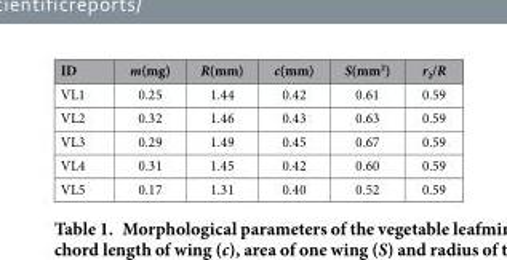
<table><thead><tr><td>ID</td><td>m(mg)</td><td>R(mm)</td><td>c(mm)</td><td>S(mm<sup>2</sup>)</td><td>r<sub>2</sub>/R</td></tr></thead><tbody><tr><td>VL1</td><td>0.25</td><td>1.44</td><td>0.42</td><td>0.61</td><td>0.59</td></tr><tr><td>VL2</td><td>0.32</td><td>1.46</td><td>0.43</td><td>0.63</td><td>0.59</td></tr><tr><td>VL3</td><td>0.29</td><td>1.49</td><td>0.45</td><td>0.67</td><td>0.59</td></tr><tr><td>VL4</td><td>0.31</td><td>1.45</td><td>0.42</td><td>0.60</td><td>0.59</td></tr><tr><td>VL5</td><td>0.17</td><td>1.31</td><td>0.40</td><td>0.52</td><td>0.59</td></tr></tbody></table>